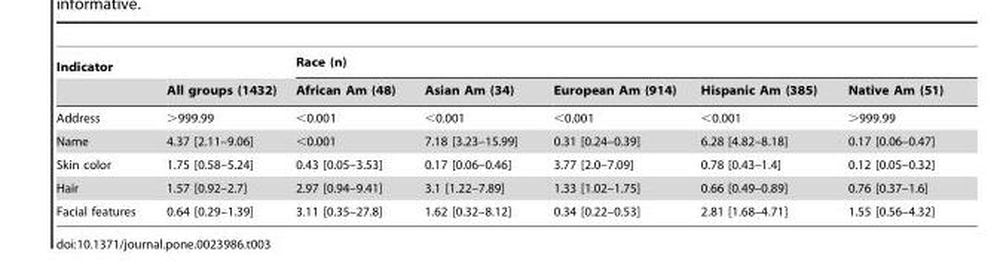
<table><thead><tr><td rowspan="2">Indicator</td><td rowspan="2">All groups (1432)</td><td colspan="5">Race (n)</td></tr><tr><td>African Am (48)</td><td>Asian Am (34)</td><td>European Am (914)</td><td>Hispanic Am (385)</td><td>Native Am (51)</td></tr></thead><tbody><tr><td>Address</td><td>&gt;999.99</td><td>&lt;0.001</td><td>&lt;0.001</td><td>&lt;0.001</td><td>&lt;0.001</td><td>&gt;999.99</td></tr><tr><td>Name</td><td>4.37 [2.11–9.06]</td><td>&lt;0.001</td><td>7.18 [3.23–15.99]</td><td>0.31 [0.24–0.39]</td><td>6.28 [4.82–8.18]</td><td>0.17 [0.06–0.47]</td></tr><tr><td>Skin color</td><td>1.75 [0.58–5.24]</td><td>0.43 [0.05–3.53]</td><td>0.17 [0.06–0.46]</td><td>3.77 [2.0–7.09]</td><td>0.78 [0.43–1.4]</td><td>0.12 [0.05–0.32]</td></tr><tr><td>Hair</td><td>1.57 [0.92–2.7]</td><td>2.97 [0.94–9.41]</td><td>3.1 [1.22–7.89]</td><td>1.33 [1.02–1.75]</td><td>0.66 [0.49–0.89]</td><td>0.76 [0.37–1.6]</td></tr><tr><td>Facial features</td><td>0.64 [0.29–1.39]</td><td>3.11 [0.35–27.8]</td><td>1.62 [0.32–8.12]</td><td>0.34 [0.22–0.53]</td><td>2.81 [1.68–4.71]</td><td>1.55 [0.56–4.32]</td></tr></tbody></table>